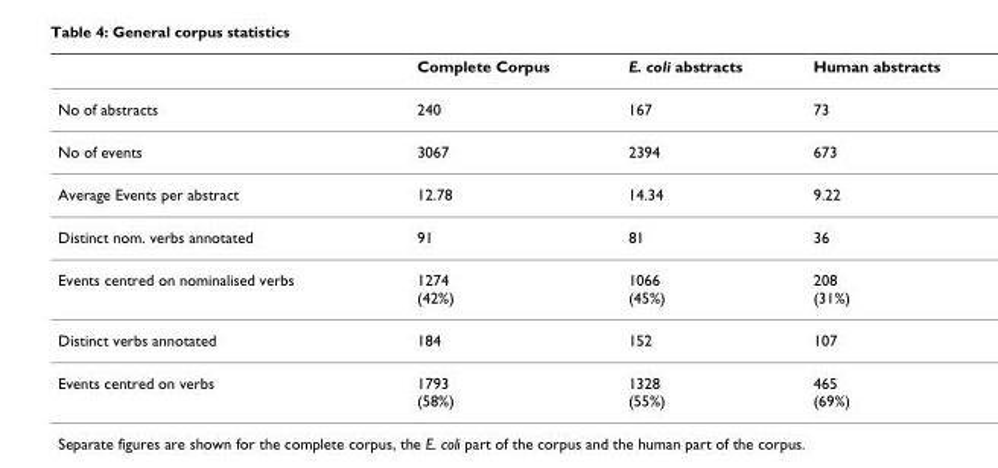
<table><thead><tr><td></td><td>Complete Corpus</td><td>E. coli abstracts</td><td>Human abstracts</td></tr></thead><tbody><tr><td>No of abstracts</td><td>240</td><td>167</td><td>73</td></tr><tr><td>No of events</td><td>3067</td><td>2394</td><td>673</td></tr><tr><td>Average Events per abstract</td><td>12.78</td><td>14.34</td><td>9.22</td></tr><tr><td>Distinct nom. verbs annotated</td><td>91</td><td>81</td><td>36</td></tr><tr><td>Events centred on nominalised verbs</td><td>1274 (42%)</td><td>1066 (45%)</td><td>208 (31%)</td></tr><tr><td>Distinct verbs annotated</td><td>184</td><td>152</td><td>107</td></tr><tr><td>Events centred on verbs</td><td>1793 (58%)</td><td>1328 (55%)</td><td>465 (69%)</td></tr></tbody></table>